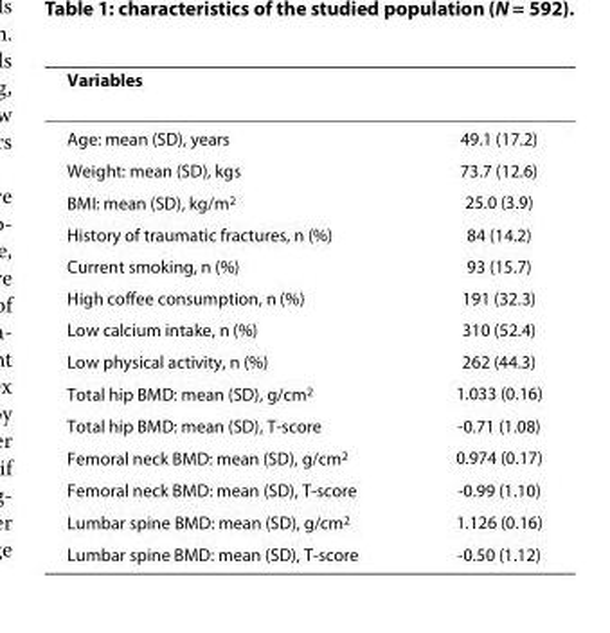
<table><thead><tr><td>Variables</td><td></td></tr></thead><tbody><tr><td>Age: mean (SD), years</td><td>49.1 (17.2)</td></tr><tr><td>Weight: mean (SD), kgs</td><td>73.7 (12.6)</td></tr><tr><td>BMI: mean (SD), kg/m<sup>2</sup></td><td>25.0 (3.9)</td></tr><tr><td>History of traumatic fractures, n (%)</td><td>84 (14.2)</td></tr><tr><td>Current smoking, n (%)</td><td>93 (15.7)</td></tr><tr><td>High coffee consumption, n (%)</td><td>191 (32.3)</td></tr><tr><td>Low calcium intake, n (%)</td><td>310 (52.4)</td></tr><tr><td>Low physical activity, n (%)</td><td>262 (44.3)</td></tr><tr><td>Total hip BMD: mean (SD), g/cm<sup>2</sup></td><td>1.033 (0.16)</td></tr><tr><td>Total hip BMD: mean (SD), T-score</td><td>-0.71 (1.08)</td></tr><tr><td>Femoral neck BMD: mean (SD), g/cm<sup>2</sup></td><td>0.974 (0.17)</td></tr><tr><td>Femoral neck BMD: mean (SD), T-score</td><td>-0.99 (1.10)</td></tr><tr><td>Lumbar spine BMD: mean (SD), g/cm<sup>2</sup></td><td>1.126 (0.16)</td></tr><tr><td>Lumbar spine BMD: mean (SD), T-score</td><td>-0.50 (1.12)</td></tr></tbody></table>